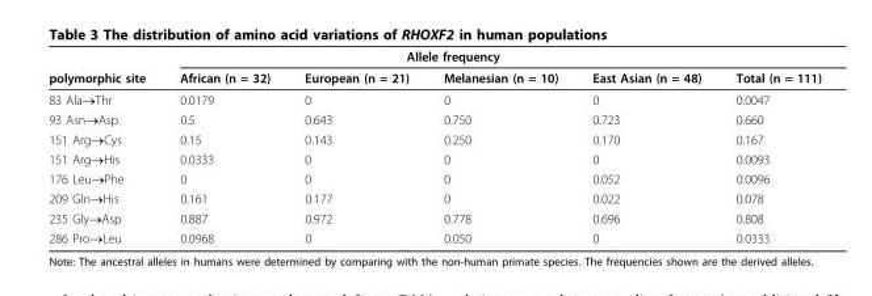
<table><thead><tr><td rowspan="2">polymorphic site</td><td colspan="4">Allele frequency</td><td rowspan="2">Total (n = 111)</td></tr><tr><td>African (n = 32)</td><td>European (n = 21)</td><td>Melanesian (n = 10)</td><td>East Asian (n = 48)</td></tr></thead><tbody><tr><td>83 Ala→Thr</td><td>0.0179</td><td>0</td><td>0</td><td>0</td><td>0.0047</td></tr><tr><td>93 Asn→Asp</td><td>0.5</td><td>0.643</td><td>0.750</td><td>0.723</td><td>0.660</td></tr><tr><td>151 Arg→Cys</td><td>0.15</td><td>0.143</td><td>0.250</td><td>0.170</td><td>0.167</td></tr><tr><td>151 Arg→His</td><td>0.0333</td><td>0</td><td>0</td><td>0</td><td>0.0093</td></tr><tr><td>176 Leu→Phe</td><td>0</td><td>0</td><td>0</td><td>0.052</td><td>0.0096</td></tr><tr><td>209 Gln→His</td><td>0.161</td><td>0.177</td><td>0</td><td>0.022</td><td>0.078</td></tr><tr><td>235 Gly→Asp</td><td>0.887</td><td>0.972</td><td>0.778</td><td>0.696</td><td>0.808</td></tr><tr><td>286 Pro→Leu</td><td>0.0968</td><td>0</td><td>0.050</td><td>0</td><td>0.0333</td></tr></tbody></table>